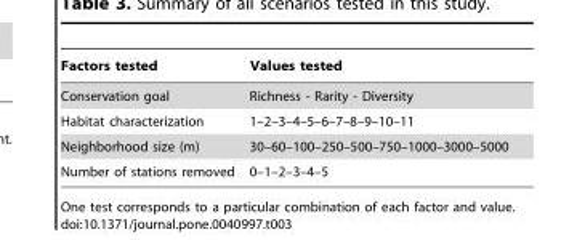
<table><thead><tr><td>Factors tested</td><td>Values tested</td></tr></thead><tbody><tr><td>Conservation goal</td><td>Richness - Rarity - Diversity</td></tr><tr><td>Habitat characterization</td><td>1–2–3–4–5–6–7–8–9–10–11</td></tr><tr><td>Neighborhood size (m)</td><td>30–60–100–250–500–750–1000–3000–5000</td></tr><tr><td>Number of stations removed</td><td>0–1–2–3–4–5</td></tr></tbody></table>